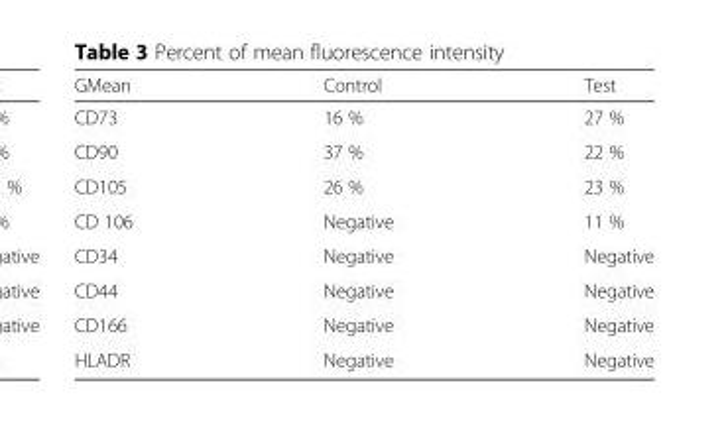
<table><thead><tr><td>GMean</td><td>Control</td><td>Test</td></tr></thead><tbody><tr><td>CD73</td><td>16 %</td><td>27 %</td></tr><tr><td>CD90</td><td>37 %</td><td>22 %</td></tr><tr><td>CD105</td><td>26 %</td><td>23 %</td></tr><tr><td>CD 106</td><td>Negative</td><td>11 %</td></tr><tr><td>CD34</td><td>Negative</td><td>Negative</td></tr><tr><td>CD44</td><td>Negative</td><td>Negative</td></tr><tr><td>CD166</td><td>Negative</td><td>Negative</td></tr><tr><td>HLADR</td><td>Negative</td><td>Negative</td></tr></tbody></table>